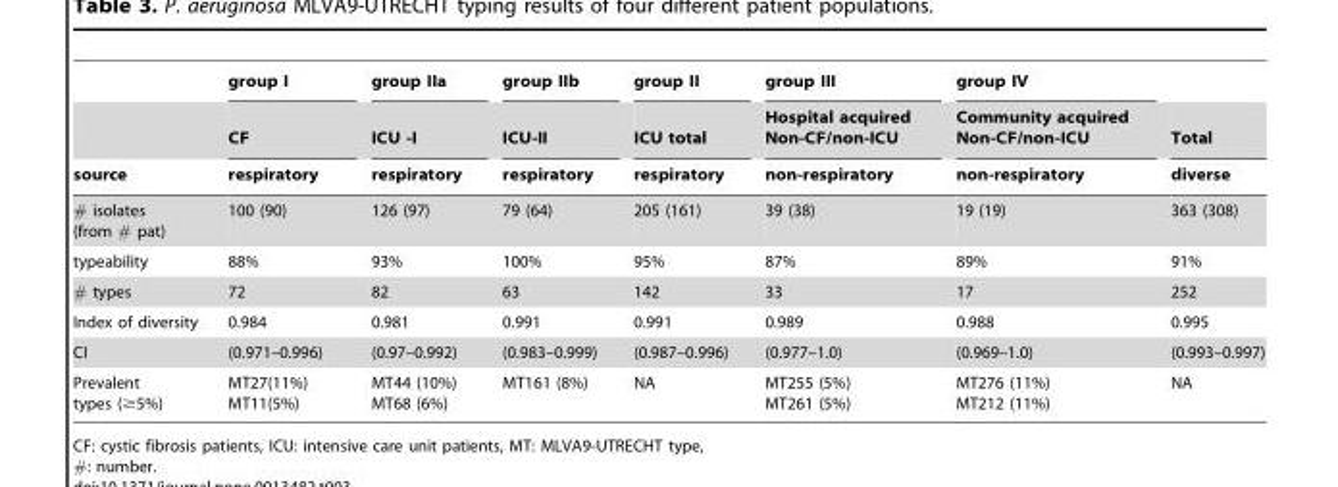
<table><thead><tr><td rowspan="3">source</td><td rowspan="3">group I CF respiratory</td><td rowspan="3">group IIa ICU -I respiratory</td><td rowspan="3">group IIb ICU-II respiratory</td><td rowspan="3">group II ICU total respiratory</td><td rowspan="3">group III Hospital acquired Non-CF/non-ICU non-respiratory</td><td rowspan="3">group IV Community acquired Non-CF/non-ICU non-respiratory</td><td rowspan="3">Total diverse</td></tr><tr></tr><tr></tr></thead><tbody><tr><td># isolates (from # pat)</td><td>100 (90)</td><td>126 (97)</td><td>79 (64)</td><td>205 (161)</td><td>39 (38)</td><td>19 (19)</td><td>363 (308)</td></tr><tr><td>typeability</td><td>88%</td><td>93%</td><td>100%</td><td>95%</td><td>87%</td><td>89%</td><td>91%</td></tr><tr><td># types</td><td>72</td><td>82</td><td>63</td><td>142</td><td>33</td><td>17</td><td>252</td></tr><tr><td>Index of diversity</td><td>0.984</td><td>0.981</td><td>0.991</td><td>0.991</td><td>0.989</td><td>0.988</td><td>0.995</td></tr><tr><td>CI</td><td>(0.971–0.996)</td><td>(0.97–0.992)</td><td>(0.983–0.999)</td><td>(0.987–0.996)</td><td>(0.977–1.0)</td><td>(0.969–1.0)</td><td>(0.993–0.997)</td></tr><tr><td>Prevalent types (≥5%)</td><td>MT27(11%) MT11(5%)</td><td>MT44 (10%) MT68 (6%)</td><td>MT161 (8%)</td><td>NA</td><td>MT255 (5%) MT261 (5%)</td><td>MT276 (11%) MT212 (11%)</td><td>NA</td></tr></tbody></table>